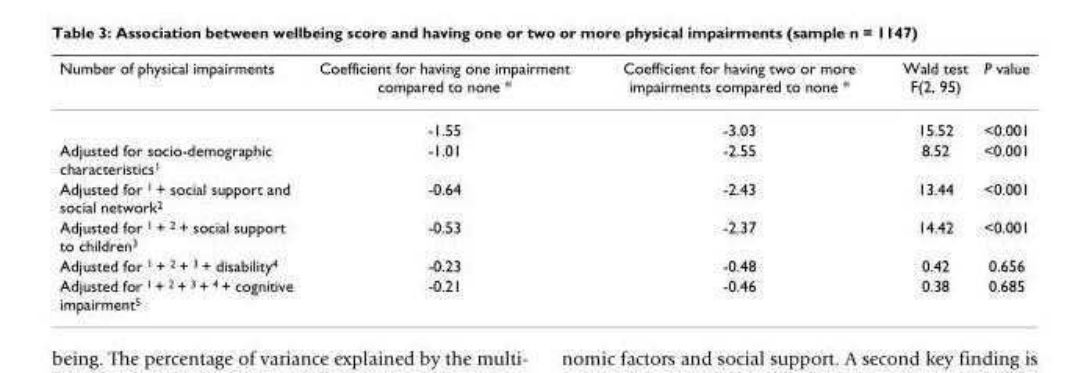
<table><thead><tr><td>Number of physical impairments</td><td>Coefficient for having one impairment compared to none *</td><td>Coefficient for having two or more impairments compared to none *</td><td>Wald test F(2, 95)</td><td>P value</td></tr></thead><tbody><tr><td></td><td>-1.55</td><td>-3.03</td><td>15.52</td><td>&lt;0.001</td></tr><tr><td>Adjusted for socio-demographic characteristics<sup>1</sup></td><td>-1.01</td><td>-2.55</td><td>8.52</td><td>&lt;0.001</td></tr><tr><td>Adjusted for <sup>1</sup> + social support and social network<sup>2</sup></td><td>-0.64</td><td>-2.43</td><td>13.44</td><td>&lt;0.001</td></tr><tr><td>Adjusted for <sup>1</sup> + <sup>2</sup> + social support to children<sup>3</sup></td><td>-0.53</td><td>-2.37</td><td>14.42</td><td>&lt;0.001</td></tr><tr><td>Adjusted for <sup>1</sup> + <sup>2</sup> + <sup>3</sup> + disability<sup>4</sup></td><td>-0.23</td><td>-0.48</td><td>0.42</td><td>0.656</td></tr><tr><td>Adjusted for <sup>1</sup> + <sup>2</sup> + <sup>3</sup> + <sup>4</sup> + cognitive impairment<sup>5</sup></td><td>-0.21</td><td>-0.46</td><td>0.38</td><td>0.685</td></tr></tbody></table>